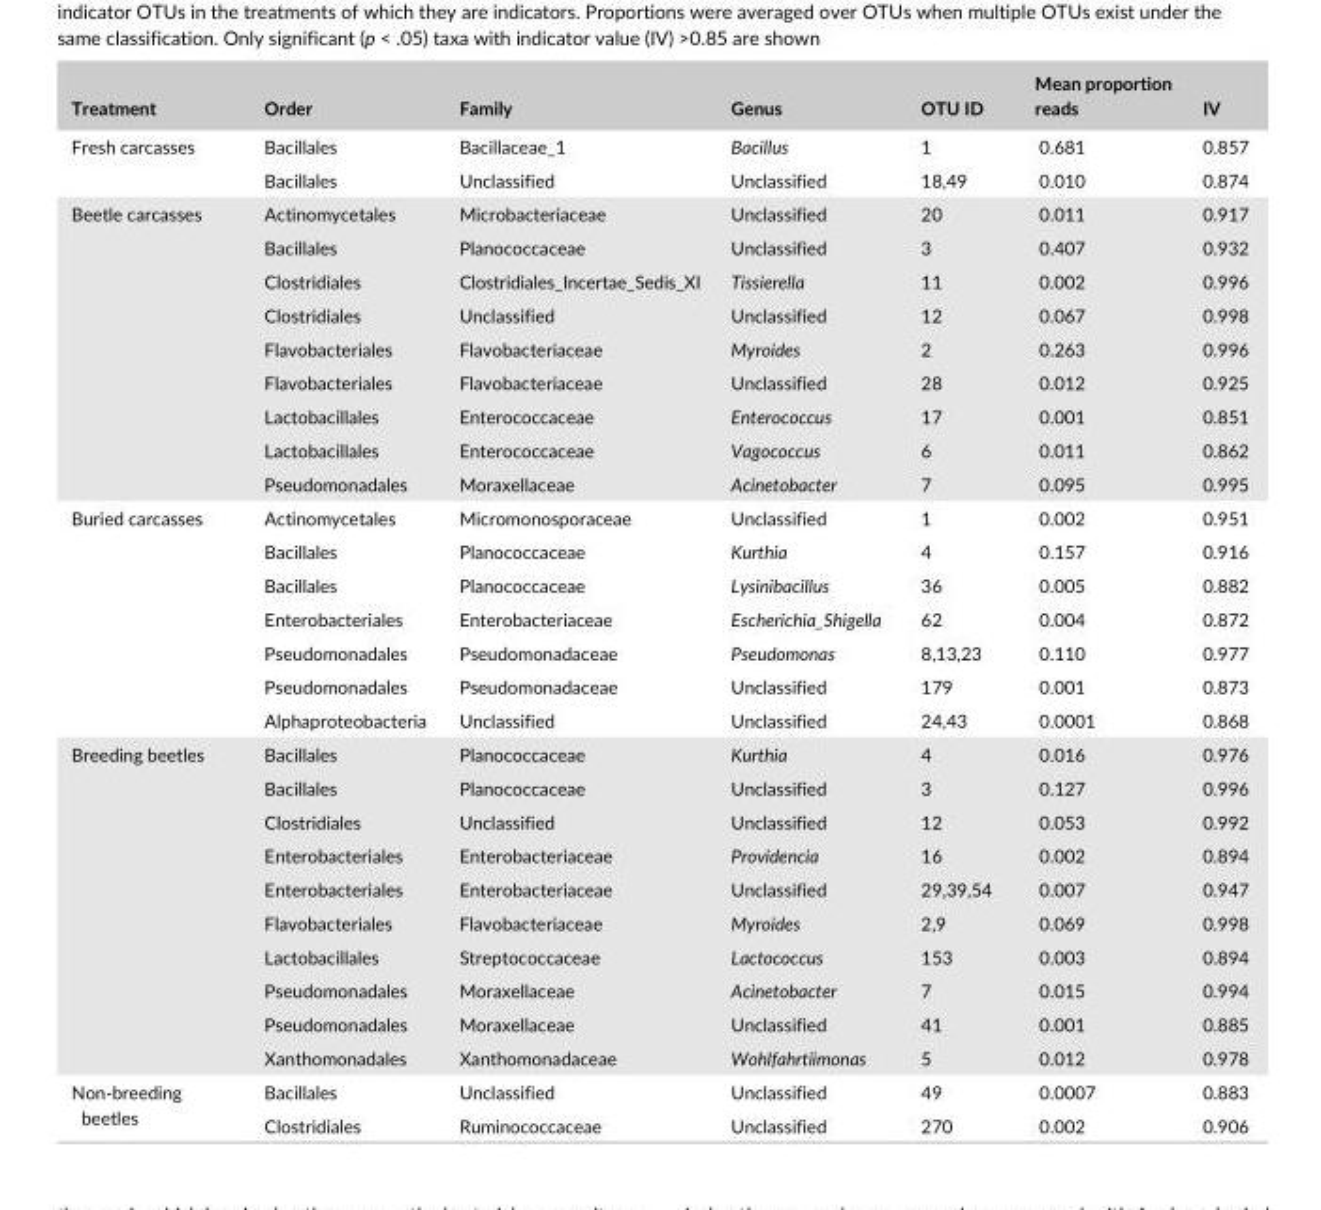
<table><thead><tr><td>Treatment</td><td>Order</td><td>Family</td><td>Genus</td><td>OTU ID</td><td>Mean proportion reads</td><td>IV</td></tr></thead><tbody><tr><td rowspan="2">Fresh carcasses</td><td>Bacillales</td><td>Bacillaceae_1</td><td>Bacillus</td><td>1</td><td>0.681</td><td>0.857</td></tr><tr><td>Bacillales</td><td>Unclassified</td><td>Unclassified</td><td>18,49</td><td>0.010</td><td>0.874</td></tr><tr><td rowspan="9">Beetle carcasses</td><td>Actinomycetales</td><td>Microbacteriaceae</td><td>Unclassified</td><td>20</td><td>0.011</td><td>0.917</td></tr><tr><td>Bacillales</td><td>Planococcaceae</td><td>Unclassified</td><td>3</td><td>0.407</td><td>0.932</td></tr><tr><td>Clostridiales</td><td>Clostridiales_Incertae_Sedis_XI</td><td>Tissierella</td><td>11</td><td>0.002</td><td>0.996</td></tr><tr><td>Clostridiales</td><td>Unclassified</td><td>Unclassified</td><td>12</td><td>0.067</td><td>0.998</td></tr><tr><td>Flavobacteriales</td><td>Flavobacteriaceae</td><td>Myroides</td><td>2</td><td>0.263</td><td>0.996</td></tr><tr><td>Flavobacteriales</td><td>Flavobacteriaceae</td><td>Unclassified</td><td>28</td><td>0.012</td><td>0.925</td></tr><tr><td>Lactobacillales</td><td>Enterococcaceae</td><td>Enterococcus</td><td>17</td><td>0.001</td><td>0.851</td></tr><tr><td>Lactobacillales</td><td>Enterococcaceae</td><td>Vagococcus</td><td>6</td><td>0.011</td><td>0.862</td></tr><tr><td>Pseudomonadales</td><td>Moraxellaceae</td><td>Acinetobacter</td><td>7</td><td>0.095</td><td>0.995</td></tr><tr><td rowspan="7">Buried carcasses</td><td>Actinomycetales</td><td>Micromonosporaceae</td><td>Unclassified</td><td>1</td><td>0.002</td><td>0.951</td></tr><tr><td>Bacillales</td><td>Planococcaceae</td><td>Kurthia</td><td>4</td><td>0.157</td><td>0.916</td></tr><tr><td>Bacillales</td><td>Planococcaceae</td><td>Lysinibacillus</td><td>36</td><td>0.005</td><td>0.882</td></tr><tr><td>Enterobacteriales</td><td>Enterobacteriaceae</td><td>Escherichia_Shigella</td><td>62</td><td>0.004</td><td>0.872</td></tr><tr><td>Pseudomonadales</td><td>Pseudomonadaceae</td><td>Pseudomonas</td><td>8,13,23</td><td>0.110</td><td>0.977</td></tr><tr><td>Pseudomonadales</td><td>Pseudomonadaceae</td><td>Unclassified</td><td>179</td><td>0.001</td><td>0.873</td></tr><tr><td>Alphaproteobacteria</td><td>Unclassified</td><td>Unclassified</td><td>24,43</td><td>0.0001</td><td>0.868</td></tr><tr><td rowspan="10">Breeding beetles</td><td>Bacillales</td><td>Planococcaceae</td><td>Kurthia</td><td>4</td><td>0.016</td><td>0.976</td></tr><tr><td>Bacillales</td><td>Planococcaceae</td><td>Unclassified</td><td>3</td><td>0.127</td><td>0.996</td></tr><tr><td>Clostridiales</td><td>Unclassified</td><td>Unclassified</td><td>12</td><td>0.053</td><td>0.992</td></tr><tr><td>Enterobacteriales</td><td>Enterobacteriaceae</td><td>Providencia</td><td>16</td><td>0.002</td><td>0.894</td></tr><tr><td>Enterobacteriales</td><td>Enterobacteriaceae</td><td>Unclassified</td><td>29,39,54</td><td>0.007</td><td>0.947</td></tr><tr><td>Flavobacteriales</td><td>Flavobacteriaceae</td><td>Myroides</td><td>2,9</td><td>0.069</td><td>0.998</td></tr><tr><td>Lactobacillales</td><td>Streptococcaceae</td><td>Lactococcus</td><td>153</td><td>0.003</td><td>0.894</td></tr><tr><td>Pseudomonadales</td><td>Moraxellaceae</td><td>Acinetobacter</td><td>7</td><td>0.015</td><td>0.994</td></tr><tr><td>Pseudomonadales</td><td>Moraxellaceae</td><td>Unclassified</td><td>41</td><td>0.001</td><td>0.885</td></tr><tr><td>Xanthomonadales</td><td>Xanthomonadaceae</td><td>Wohlfahrtiimonas</td><td>5</td><td>0.012</td><td>0.978</td></tr><tr><td rowspan="2">Non- breeding beetles</td><td>Bacillales</td><td>Unclassified</td><td>Unclassified</td><td>49</td><td>0.0007</td><td>0.883</td></tr><tr><td>Clostridiales</td><td>Ruminococcaceae</td><td>Unclassified</td><td>270</td><td>0.002</td><td>0.906</td></tr></tbody></table>